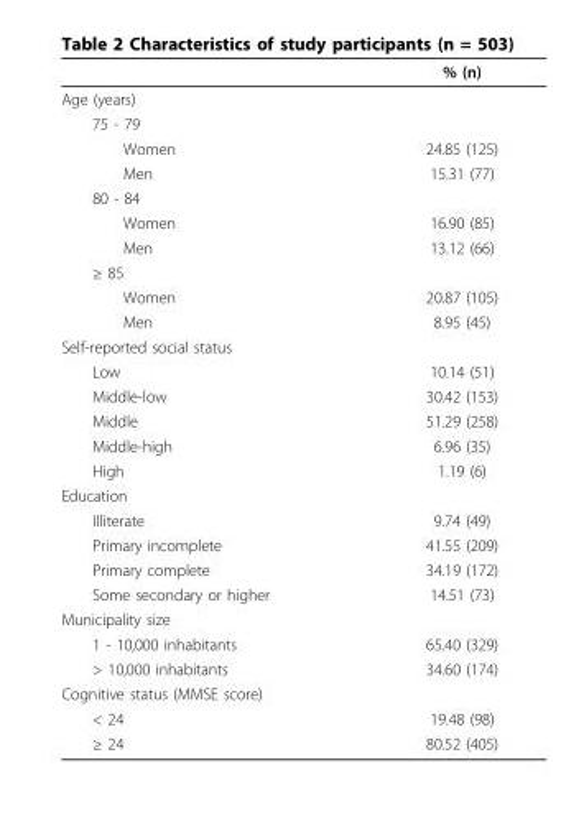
<table><thead><tr><td></td><td>% (n)</td></tr></thead><tbody><tr><td colspan="2">Age (years)</td></tr><tr><td colspan="2">75 - 79</td></tr><tr><td>Women</td><td>24.85 (125)</td></tr><tr><td>Men</td><td>15.31 (77)</td></tr><tr><td colspan="2">80 - 84</td></tr><tr><td>Women</td><td>16.90 (85)</td></tr><tr><td>Men</td><td>13.12 (66)</td></tr><tr><td colspan="2">≥ 85</td></tr><tr><td>Women</td><td>20.87 (105)</td></tr><tr><td>Men</td><td>8.95 (45)</td></tr><tr><td colspan="2">Self-reported social status</td></tr><tr><td>Low</td><td>10.14 (51)</td></tr><tr><td>Middle-low</td><td>30.42 (153)</td></tr><tr><td>Middle</td><td>51.29 (258)</td></tr><tr><td>Middle-high</td><td>6.96 (35)</td></tr><tr><td>High</td><td>1.19 (6)</td></tr><tr><td colspan="2">Education</td></tr><tr><td>Illiterate</td><td>9.74 (49)</td></tr><tr><td>Primary incomplete</td><td>41.55 (209)</td></tr><tr><td>Primary complete</td><td>34.19 (172)</td></tr><tr><td>Some secondary or higher</td><td>14.51 (73)</td></tr><tr><td colspan="2">Municipality size</td></tr><tr><td>1 - 10,000 inhabitants</td><td>65.40 (329)</td></tr><tr><td>&gt; 10,000 inhabitants</td><td>34.60 (174)</td></tr><tr><td colspan="2">Cognitive status (MMSE score)</td></tr><tr><td>&lt; 24</td><td>19.48 (98)</td></tr><tr><td>≥ 24</td><td>80.52 (405)</td></tr></tbody></table>